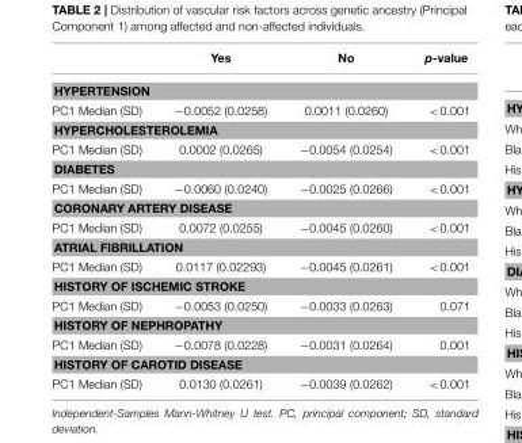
<table><thead><tr><td></td><td>Yes</td><td>No</td><td>p-value</td></tr></thead><tbody><tr><td colspan="4">HYPERTENSION</td></tr><tr><td>PC1 Median (SD)</td><td>−0.0052 (0.0258)</td><td>0.0011 (0.0260)</td><td>&lt;0.001</td></tr><tr><td colspan="4">HYPERCHOLESTEROLEMIA</td></tr><tr><td>PC1 Median (SD)</td><td>0.0002 (0.0265)</td><td>−0.0054 (0.0254)</td><td>&lt;0.001</td></tr><tr><td colspan="4">DIABETES</td></tr><tr><td>PC1 Median (SD)</td><td>−0.0060 (0.0240)</td><td>−0.0025 (0.0266)</td><td>&lt;0.001</td></tr><tr><td colspan="4">CORONARY ARTERY DISEASE</td></tr><tr><td>PC1 Median (SD)</td><td>0.0072 (0.0255)</td><td>−0.0045 (0.0260)</td><td>&lt;0.001</td></tr><tr><td colspan="4">ATRIAL FIBRILLATION</td></tr><tr><td>PC1 Median (SD)</td><td>0.0117 (0.02293)</td><td>−0.0045 (0.0261)</td><td>&lt;0.001</td></tr><tr><td colspan="4">HISTORY OF ISCHEMIC STROKE</td></tr><tr><td>PC1 Median (SD)</td><td>−0.0053 (0.0250)</td><td>−0.0033 (0.0263)</td><td>0.071</td></tr><tr><td colspan="4">HISTORY OF NEPHROPATHY</td></tr><tr><td>PC1 Median (SD)</td><td>−0.0078 (0.0228)</td><td>−0.0031 (0.0264)</td><td>0.001</td></tr><tr><td colspan="4">HISTORY OF CAROTID DISEASE</td></tr><tr><td>PC1 Median (SD)</td><td>0.0130 (0.0261)</td><td>−0.0039 (0.0262)</td><td>&lt;0.001</td></tr></tbody></table>